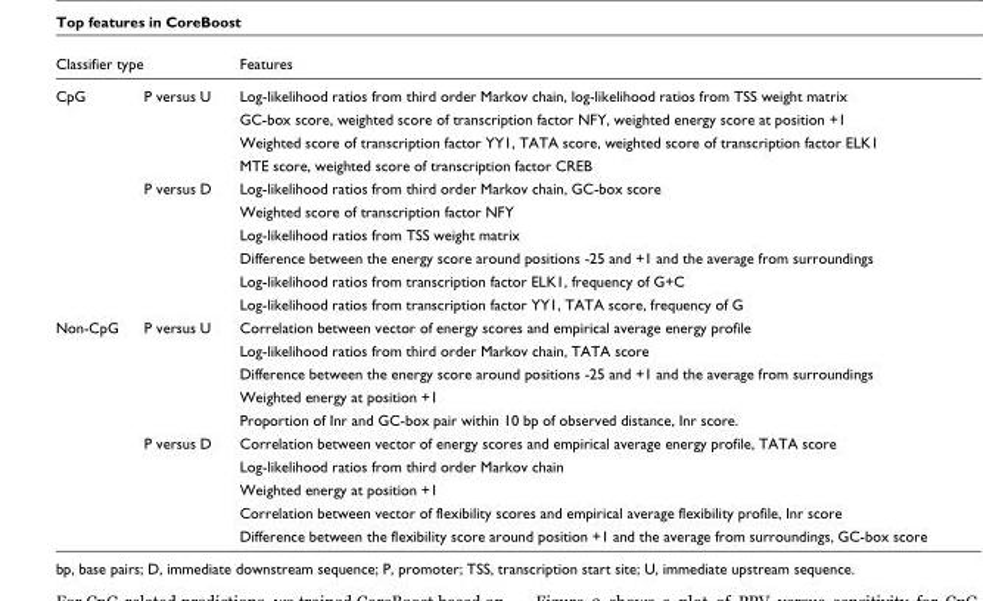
<table><thead><tr><td colspan="2">Classifier type</td><td rowspan="2">Features Log-likelihood ratios from third order Markov chain, log-likelihood ratios from TSS weight matrix</td></tr><tr><td>CpG</td><td>P versus U</td></tr></thead><tbody><tr><td></td><td></td><td>GC-box score, weighted score of transcription factor NFY, weighted energy score at position +1</td></tr><tr><td></td><td></td><td>Weighted score of transcription factor YY1, TATA score, weighted score of transcription factor ELK1</td></tr><tr><td></td><td></td><td>MTE score, weighted score of transcription factor CREB</td></tr><tr><td></td><td>P versus D</td><td>Log-likelihood ratios from third order Markov chain, GC-box score</td></tr><tr><td></td><td></td><td>Weighted score of transcription factor NFY</td></tr><tr><td></td><td></td><td>Log-likelihood ratios from TSS weight matrix</td></tr><tr><td></td><td></td><td>Difference between the energy score around positions -25 and +1 and the average from surroundings</td></tr><tr><td></td><td></td><td>Log-likelihood ratios from transcription factor ELK1, frequency of G+C</td></tr><tr><td></td><td></td><td>Log-likelihood ratios from transcription factor YY1, TATA score, frequency of G</td></tr><tr><td rowspan="10">Non-CpG</td><td>P versus U</td><td>Correlation between vector of energy scores and empirical average energy profile</td></tr><tr><td></td><td>Log-likelihood ratios from third order Markov chain, TATA score</td></tr><tr><td></td><td>Difference between the energy score around positions -25 and +1 and the average from surroundings</td></tr><tr><td></td><td>Weighted energy at position +1</td></tr><tr><td></td><td>Proportion of Inr and GC-box pair within 10 bp of observed distance, Inr score.</td></tr><tr><td>P versus D</td><td>Correlation between vector of energy scores and empirical average energy profile, TATA score</td></tr><tr><td></td><td>Log-likelihood ratios from third order Markov chain</td></tr><tr><td></td><td>Weighted energy at position +1</td></tr><tr><td></td><td>Correlation between vector of flexibility scores and empirical average flexibility profile, Inr score</td></tr><tr><td></td><td>Difference between the flexibility score around position +1 and the average from surroundings, GC-box score</td></tr></tbody></table>